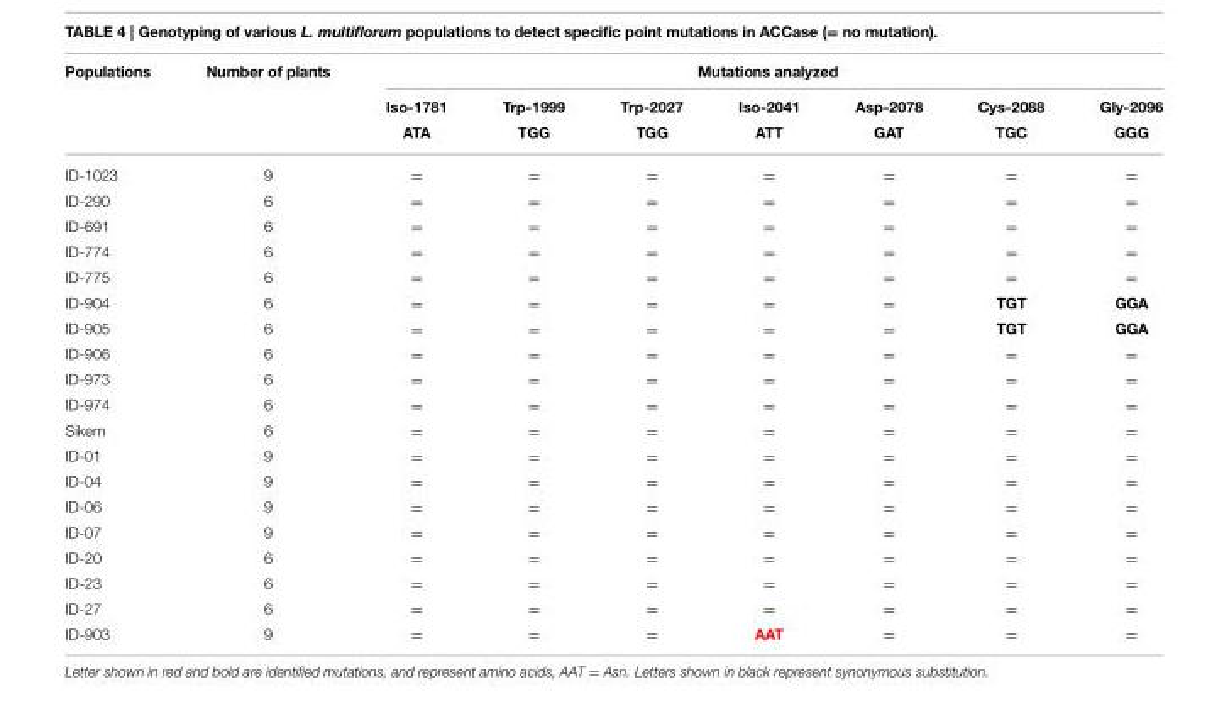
<table><thead><tr><td rowspan="2">Populations</td><td rowspan="2">Number of plants</td><td colspan="7">Mutations analyzed</td></tr><tr><td>Iso-1781 ATA</td><td>Trp-1999 TGG</td><td>Trp-2027 TGG</td><td>Iso-2041 ATT</td><td>Asp-2078 GAT</td><td>Cys-2088 TGC</td><td>Gly-2096 GGG</td></tr></thead><tbody><tr><td>ID-1023</td><td>9</td><td>=</td><td>=</td><td>=</td><td>=</td><td>=</td><td>=</td><td>=</td></tr><tr><td>ID-290</td><td>6</td><td>=</td><td>=</td><td>=</td><td>=</td><td>=</td><td>=</td><td>=</td></tr><tr><td>ID-691</td><td>6</td><td>=</td><td>=</td><td>=</td><td>=</td><td>=</td><td>=</td><td>=</td></tr><tr><td>ID-774</td><td>6</td><td>=</td><td>=</td><td>=</td><td>=</td><td>=</td><td>=</td><td>=</td></tr><tr><td>ID-775</td><td>6</td><td>=</td><td>=</td><td>=</td><td>=</td><td>=</td><td>=</td><td>=</td></tr><tr><td>ID-904</td><td>6</td><td>=</td><td>=</td><td>=</td><td>=</td><td>=</td><td>TGT</td><td>GGA</td></tr><tr><td>ID-905</td><td>6</td><td>=</td><td>=</td><td>=</td><td>=</td><td>=</td><td>TGT</td><td>GGA</td></tr><tr><td>ID-906</td><td>6</td><td>=</td><td>=</td><td>=</td><td>=</td><td>=</td><td>=</td><td>=</td></tr><tr><td>ID-973</td><td>6</td><td>=</td><td>=</td><td>=</td><td>=</td><td>=</td><td>=</td><td>=</td></tr><tr><td>ID-974</td><td>6</td><td>=</td><td>=</td><td>=</td><td>=</td><td>=</td><td>=</td><td>=</td></tr><tr><td>Sikem</td><td>6</td><td>=</td><td>=</td><td>=</td><td>=</td><td>=</td><td>=</td><td>=</td></tr><tr><td>ID-01</td><td>9</td><td>=</td><td>=</td><td>=</td><td>=</td><td>=</td><td>=</td><td>=</td></tr><tr><td>ID-04</td><td>9</td><td>=</td><td>=</td><td>=</td><td>=</td><td>=</td><td>=</td><td>=</td></tr><tr><td>ID-06</td><td>9</td><td>=</td><td>=</td><td>=</td><td>=</td><td>=</td><td>=</td><td>=</td></tr><tr><td>ID-07</td><td>9</td><td>=</td><td>=</td><td>=</td><td>=</td><td>=</td><td>=</td><td>=</td></tr><tr><td>ID-20</td><td>6</td><td>=</td><td>=</td><td>=</td><td>=</td><td>=</td><td>=</td><td>=</td></tr><tr><td>ID-23</td><td>6</td><td>=</td><td>=</td><td>=</td><td>=</td><td>=</td><td>=</td><td>=</td></tr><tr><td>ID-27</td><td>6</td><td>=</td><td>=</td><td>=</td><td>=</td><td>=</td><td>=</td><td>=</td></tr><tr><td>ID-903</td><td>9</td><td>=</td><td>=</td><td>=</td><td>AAT</td><td>=</td><td>=</td><td>=</td></tr></tbody></table>